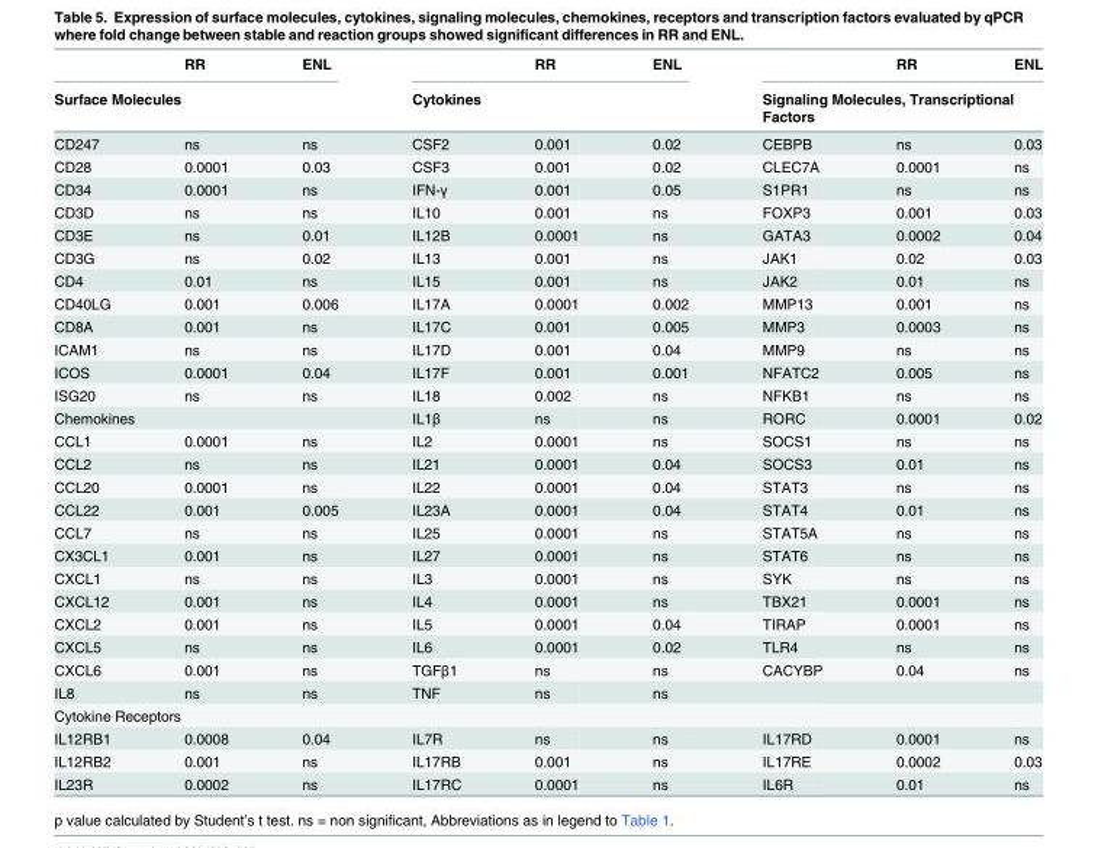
<table><thead><tr><td></td><td>RR</td><td>ENL</td><td></td><td>RR</td><td>ENL</td><td></td><td>RR</td><td>ENL</td></tr><tr><td colspan="3">Surface Molecules</td><td colspan="3">Cytokines</td><td colspan="3">Signaling Molecules, Transcriptional Factors</td></tr></thead><tbody><tr><td>CD247</td><td>ns</td><td>ns</td><td>CSF2</td><td>0.001</td><td>0.02</td><td>CEBPB</td><td>ns</td><td>0.03</td></tr><tr><td>CD28</td><td>0.0001</td><td>0.03</td><td>CSF3</td><td>0.001</td><td>0.02</td><td>CLEC7A</td><td>0.0001</td><td>ns</td></tr><tr><td>CD34</td><td>0.0001</td><td>ns</td><td>IFN-γ</td><td>0.001</td><td>0.05</td><td>S1PR1</td><td>ns</td><td>ns</td></tr><tr><td>CD3D</td><td>ns</td><td>ns</td><td>IL10</td><td>0.001</td><td>ns</td><td>FOXP3</td><td>0.001</td><td>0.03</td></tr><tr><td>CD3E</td><td>ns</td><td>0.01</td><td>IL12B</td><td>0.0001</td><td>ns</td><td>GATA3</td><td>0.0002</td><td>0.04</td></tr><tr><td>CD3G</td><td>ns</td><td>0.02</td><td>IL13</td><td>0.001</td><td>ns</td><td>JAK1</td><td>0.02</td><td>0.03</td></tr><tr><td>CD4</td><td>0.01</td><td>ns</td><td>IL15</td><td>0.001</td><td>ns</td><td>JAK2</td><td>0.01</td><td>ns</td></tr><tr><td>CD40LG</td><td>0.001</td><td>0.006</td><td>IL17A</td><td>0.0001</td><td>0.002</td><td>MMP13</td><td>0.001</td><td>ns</td></tr><tr><td>CD8A</td><td>0.001</td><td>ns</td><td>IL17C</td><td>0.001</td><td>0.005</td><td>MMP3</td><td>0.0003</td><td>ns</td></tr><tr><td>ICAM1</td><td>ns</td><td>ns</td><td>IL17D</td><td>0.001</td><td>0.04</td><td>MMP9</td><td>ns</td><td>ns</td></tr><tr><td>ICOS</td><td>0.0001</td><td>0.04</td><td>IL17F</td><td>0.001</td><td>0.001</td><td>NFATC2</td><td>0.005</td><td>ns</td></tr><tr><td>ISG20</td><td>ns</td><td>ns</td><td>IL18</td><td>0.002</td><td>ns</td><td>NFKB1</td><td>ns</td><td>ns</td></tr><tr><td colspan="3">Chemokines</td><td>IL1β</td><td>ns</td><td>ns</td><td>RORC</td><td>0.0001</td><td>0.02</td></tr><tr><td>CCL1</td><td>0.0001</td><td>ns</td><td>IL2</td><td>0.0001</td><td>ns</td><td>SOCS1</td><td>ns</td><td>ns</td></tr><tr><td>CCL2</td><td>ns</td><td>ns</td><td>IL21</td><td>0.0001</td><td>0.04</td><td>SOCS3</td><td>0.01</td><td>ns</td></tr><tr><td>CCL20</td><td>0.0001</td><td>ns</td><td>IL22</td><td>0.0001</td><td>0.04</td><td>STAT3</td><td>ns</td><td>ns</td></tr><tr><td>CCL22</td><td>0.001</td><td>0.005</td><td>IL23A</td><td>0.0001</td><td>0.04</td><td>STAT4</td><td>0.01</td><td>ns</td></tr><tr><td>CCL7</td><td>ns</td><td>ns</td><td>IL25</td><td>0.0001</td><td>ns</td><td>STAT5A</td><td>ns</td><td>ns</td></tr><tr><td>CX3CL1</td><td>0.001</td><td>ns</td><td>IL27</td><td>0.0001</td><td>ns</td><td>STAT6</td><td>ns</td><td>ns</td></tr><tr><td>CXCL1</td><td>ns</td><td>ns</td><td>IL3</td><td>0.0001</td><td>ns</td><td>SYK</td><td>ns</td><td>ns</td></tr><tr><td>CXCL12</td><td>0.001</td><td>ns</td><td>IL4</td><td>0.0001</td><td>ns</td><td>TBX21</td><td>0.0001</td><td>ns</td></tr><tr><td>CXCL2</td><td>0.001</td><td>ns</td><td>IL5</td><td>0.0001</td><td>0.04</td><td>TIRAP</td><td>0.0001</td><td>ns</td></tr><tr><td>CXCL5</td><td>ns</td><td>ns</td><td>IL6</td><td>0.0001</td><td>0.02</td><td>TLR4</td><td>ns</td><td>ns</td></tr><tr><td>CXCL6</td><td>0.001</td><td>ns</td><td>TGFβ1</td><td>ns</td><td>ns</td><td>CACYBP</td><td>0.04</td><td>ns</td></tr><tr><td>IL8</td><td>ns</td><td>ns</td><td>TNF</td><td>ns</td><td>ns</td><td></td><td></td><td></td></tr><tr><td colspan="9">Cytokine Receptors</td></tr><tr><td>IL12RB1</td><td>0.0008</td><td>0.04</td><td>IL7R</td><td>ns</td><td>ns</td><td>IL17RD</td><td>0.0001</td><td>ns</td></tr><tr><td>IL12RB2</td><td>0.001</td><td>ns</td><td>IL17RB</td><td>0.001</td><td>ns</td><td>IL17RE</td><td>0.0002</td><td>0.03</td></tr><tr><td>IL23R</td><td>0.0002</td><td>ns</td><td>IL17RC</td><td>0.0001</td><td>ns</td><td>IL6R</td><td>0.01</td><td>ns</td></tr></tbody></table>